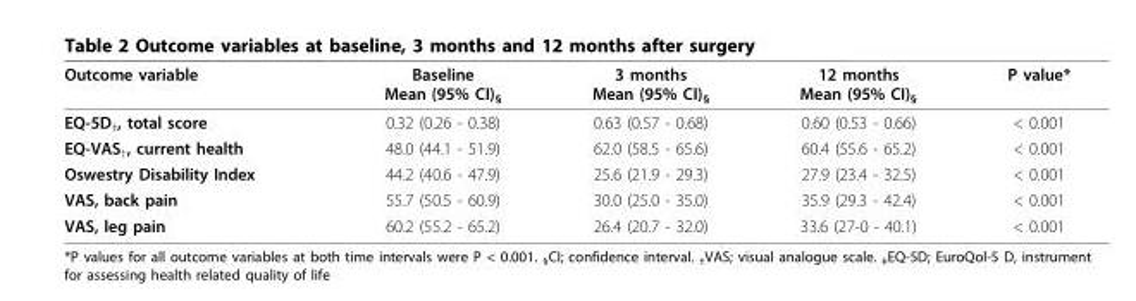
<table><thead><tr><td>Outcome variable</td><td>Baseline Mean (95% CI)<sub>§</sub></td><td>3 months Mean (95% CI)<sub>§</sub></td><td>12 months Mean (95% CI)<sub>§</sub></td><td>P value*</td></tr></thead><tbody><tr><td>EQ-5D<sub>‡</sub>, total score</td><td>0.32 (0.26 - 0.38)</td><td>0.63 (0.57 - 0.68)</td><td>0.60 (0.53 - 0.66)</td><td>&lt; 0.001</td></tr><tr><td>EQ-VAS<sub>†</sub>, current health</td><td>48.0 (44.1 - 51.9)</td><td>62.0 (58.5 - 65.6)</td><td>60.4 (55.6 - 65.2)</td><td>&lt; 0.001</td></tr><tr><td>Oswestry Disability Index</td><td>44.2 (40.6 - 47.9)</td><td>25.6 (21.9 - 29.3)</td><td>27.9 (23.4 - 32.5)</td><td>&lt; 0.001</td></tr><tr><td>VAS, back pain</td><td>55.7 (50.5 - 60.9)</td><td>30.0 (25.0 - 35.0)</td><td>35.9 (29.3 - 42.4)</td><td>&lt; 0.001</td></tr><tr><td>VAS, leg pain</td><td>60.2 (55.2 - 65.2)</td><td>26.4 (20.7 - 32.0)</td><td>33.6 (27-0 - 40.1)</td><td>&lt; 0.001</td></tr></tbody></table>